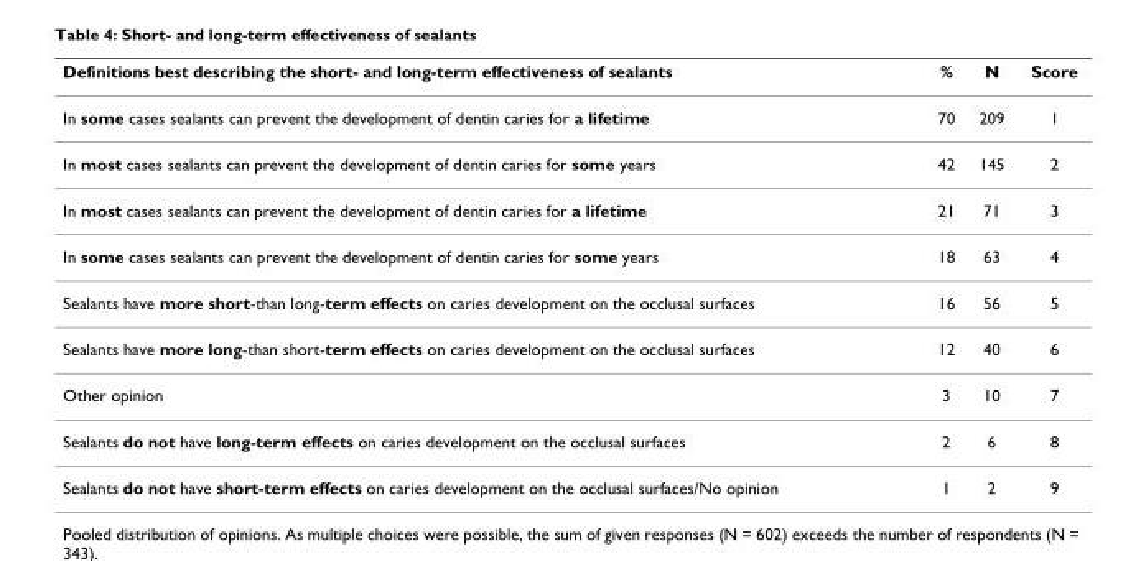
<table><thead><tr><td>Definitions best describing the short- and long-term effectiveness of sealants</td><td>%</td><td>N</td><td>Score</td></tr></thead><tbody><tr><td>In some cases sealants can prevent the development of dentin caries for a lifetime</td><td>70</td><td>209</td><td>1</td></tr><tr><td>In most cases sealants can prevent the development of dentin caries for some years</td><td>42</td><td>145</td><td>2</td></tr><tr><td>In most cases sealants can prevent the development of dentin caries for a lifetime</td><td>21</td><td>71</td><td>3</td></tr><tr><td>In some cases sealants can prevent the development of dentin caries for some years</td><td>18</td><td>63</td><td>4</td></tr><tr><td>Sealants have more short-than long-term effects on caries development on the occlusal surfaces</td><td>16</td><td>56</td><td>5</td></tr><tr><td>Sealants have more long-than short-term effects on caries development on the occlusal surfaces</td><td>12</td><td>40</td><td>6</td></tr><tr><td>Other opinion</td><td>3</td><td>10</td><td>7</td></tr><tr><td>Sealants do not have long-term effects on caries development on the occlusal surfaces</td><td>2</td><td>6</td><td>8</td></tr><tr><td>Sealants do not have short-term effects on caries development on the occlusal surfaces/No opinion</td><td>1</td><td>2</td><td>9</td></tr></tbody></table>